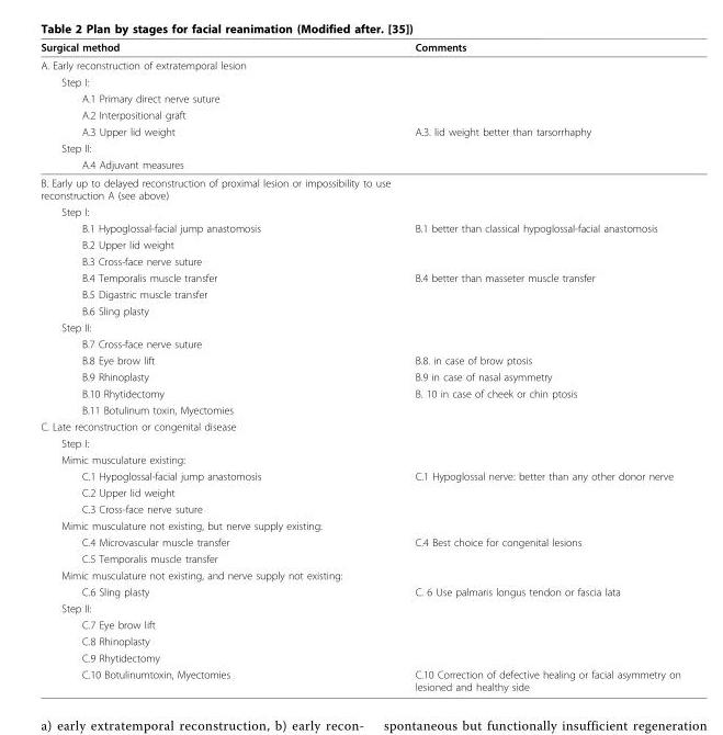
<table><thead><tr><td>Surgical method</td><td>Comments</td></tr></thead><tbody><tr><td colspan="2">A. Early reconstruction of extratemporal lesion</td></tr><tr><td colspan="2">Step I:</td></tr><tr><td colspan="2">A.1 Primary direct nerve suture</td></tr><tr><td colspan="2">A.2 Interpositional graft</td></tr><tr><td>A.3 Upper lid weight</td><td>A.3. lid weight better than tarsorrhaphy</td></tr><tr><td colspan="2">Step II:</td></tr><tr><td colspan="2">A.4 Adjuvant measures</td></tr><tr><td colspan="2">B. Early up to delayed reconstruction of proximal lesion or impossibility to use reconstruction A (see above)</td></tr><tr><td colspan="2">Step I:</td></tr><tr><td>B.1 Hypoglossal-facial jump anastomosis</td><td>B.1 better than classical hypoglossal-facial anastomosis</td></tr><tr><td colspan="2">B.2 Upper lid weight</td></tr><tr><td colspan="2">B.3 Cross-face nerve suture</td></tr><tr><td>B.4 Temporalis muscle transfer</td><td>B.4 better than masseter muscle transfer</td></tr><tr><td colspan="2">B.5 Digastric muscle transfer</td></tr><tr><td colspan="2">B.6 Sling plasty</td></tr><tr><td colspan="2">Step II:</td></tr><tr><td colspan="2">B.7 Cross-face nerve suture</td></tr><tr><td>B.8 Eye brow lift</td><td>B.8. in case of brow ptosis</td></tr><tr><td>B.9 Rhinoplasty</td><td>B.9 in case of nasal asymmetry</td></tr><tr><td>B.10 Rhytidectomy</td><td>B. 10 in case of cheek or chin ptosis</td></tr><tr><td colspan="2">B.11 Botulinum toxin, Myectomies</td></tr><tr><td colspan="2">C. Late reconstruction or congenital disease</td></tr><tr><td colspan="2">Step I:</td></tr><tr><td colspan="2">Mimic musculature existing:</td></tr><tr><td>C.1 Hypoglossal-facial jump anastomosis</td><td>C.1 Hypoglossal nerve: better than any other donor nerve</td></tr><tr><td colspan="2">C.2 Upper lid weight</td></tr><tr><td colspan="2">C.3 Cross-face nerve suture</td></tr><tr><td colspan="2">Mimic musculature not existing, but nerve supply existing:</td></tr><tr><td>C.4 Microvascular muscle transfer</td><td>C.4 Best choice for congenital lesions</td></tr><tr><td colspan="2">C.5 Temporalis muscle transfer</td></tr><tr><td colspan="2">Mimic musculature not existing, and nerve supply not existing:</td></tr><tr><td>C.6 Sling plasty</td><td>C. 6 Use palmaris longus tendon or fascia lata</td></tr><tr><td colspan="2">Step II:</td></tr><tr><td colspan="2">C.7 Eye brow lift</td></tr><tr><td colspan="2">C.8 Rhinoplasty</td></tr><tr><td colspan="2">C.9 Rhytidectomy</td></tr><tr><td>C.10 Botulinumtoxin, Myectomies</td><td>C.10 Correction of defective healing or facial asymmetry on lesioned and healthy side</td></tr></tbody></table>